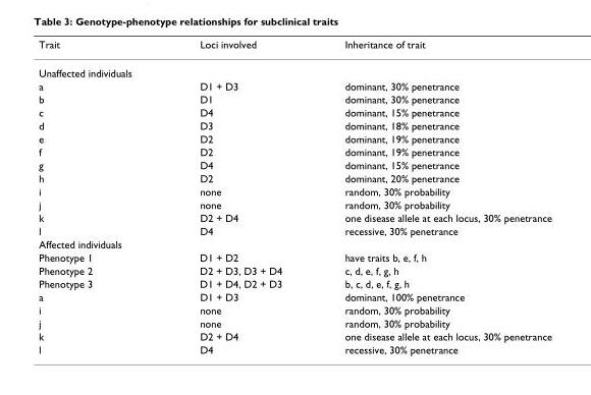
<table><thead><tr><td>Trait</td><td>Loci involved</td><td>Inheritance of trait</td></tr></thead><tbody><tr><td colspan="3">Unaffected individuals</td></tr><tr><td>a</td><td>D1 + D3</td><td>dominant, 30% penetrance</td></tr><tr><td>b</td><td>D1</td><td>dominant, 30% penetrance</td></tr><tr><td>c</td><td>D4</td><td>dominant, 15% penetrance</td></tr><tr><td>d</td><td>D3</td><td>dominant, 18% penetrance</td></tr><tr><td>e</td><td>D2</td><td>dominant, 19% penetrance</td></tr><tr><td>f</td><td>D2</td><td>dominant, 19% penetrance</td></tr><tr><td>g</td><td>D4</td><td>dominant, 15% penetrance</td></tr><tr><td>h</td><td>D2</td><td>dominant, 20% penetrance</td></tr><tr><td>i</td><td>none</td><td>random, 30% probability</td></tr><tr><td>j</td><td>none</td><td>random, 30% probability</td></tr><tr><td>k</td><td>D2 + D4</td><td>one disease allele at each locus, 30% penetrance</td></tr><tr><td>l</td><td>D4</td><td>recessive, 30% penetrance</td></tr><tr><td colspan="3">Affected individuals</td></tr><tr><td>Phenotype 1</td><td>D1 + D2</td><td>have traits b, e, f, h</td></tr><tr><td>Phenotype 2</td><td>D2 + D3, D3 + D4</td><td>c, d, e, f, g, h</td></tr><tr><td>Phenotype 3</td><td>D1 + D4, D2 + D3</td><td>b, c, d, e, f, g, h</td></tr><tr><td>a</td><td>D1 + D3</td><td>dominant, 100% penetrance</td></tr><tr><td>i</td><td>none</td><td>random, 30% probability</td></tr><tr><td>j</td><td>none</td><td>random, 30% probability</td></tr><tr><td>k</td><td>D2 + D4</td><td>one disease allele at each locus, 30% penetrance</td></tr><tr><td>l</td><td>D4</td><td>recessive, 30% penetrance</td></tr></tbody></table>